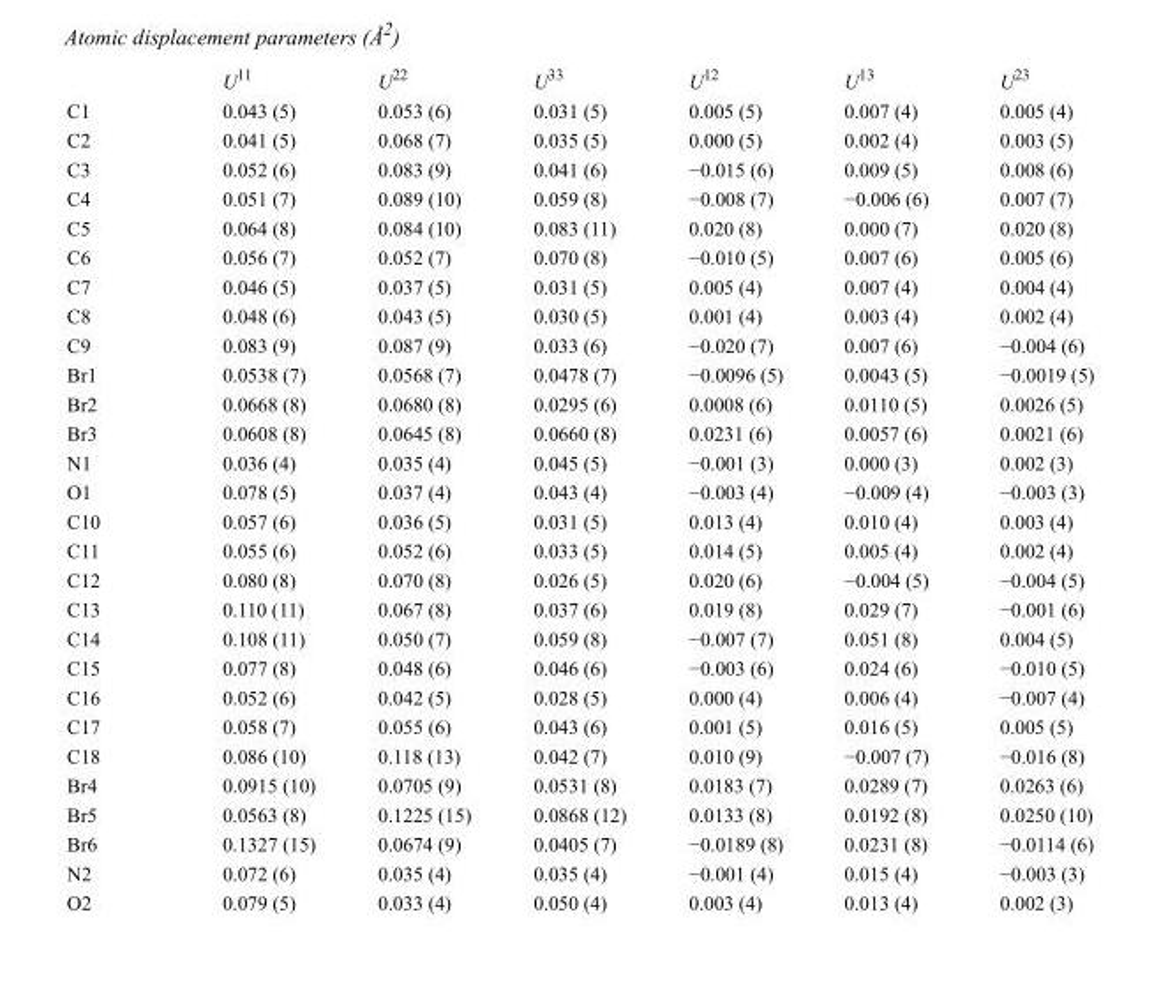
<table><thead><tr><td></td><td>U<sup>11</sup></td><td>U<sup>22</sup></td><td>U<sup>33</sup></td><td>U<sup>12</sup></td><td>U<sup>13</sup></td><td>U<sup>23</sup></td></tr></thead><tbody><tr><td>C1</td><td>0.043 (5)</td><td>0.053 (6)</td><td>0.031 (5)</td><td>0.005 (5)</td><td>0.007 (4)</td><td>0.005 (4)</td></tr><tr><td>C2</td><td>0.041 (5)</td><td>0.068 (7)</td><td>0.035 (5)</td><td>0.000 (5)</td><td>0.002 (4)</td><td>0.003 (5)</td></tr><tr><td>C3</td><td>0.052 (6)</td><td>0.083 (9)</td><td>0.041 (6)</td><td>−0.015 (6)</td><td>0.009 (5)</td><td>0.008 (6)</td></tr><tr><td>C4</td><td>0.051 (7)</td><td>0.089 (10)</td><td>0.059 (8)</td><td>−0.008 (7)</td><td>−0.006 (6)</td><td>0.007 (7)</td></tr><tr><td>C5</td><td>0.064 (8)</td><td>0.084 (10)</td><td>0.083 (11)</td><td>0.020 (8)</td><td>0.000 (7)</td><td>0.020 (8)</td></tr><tr><td>C6</td><td>0.056 (7)</td><td>0.052 (7)</td><td>0.070 (8)</td><td>−0.010 (5)</td><td>0.007 (6)</td><td>0.005 (6)</td></tr><tr><td>C7</td><td>0.046 (5)</td><td>0.037 (5)</td><td>0.031 (5)</td><td>0.005 (4)</td><td>0.007 (4)</td><td>0.004 (4)</td></tr><tr><td>C8</td><td>0.048 (6)</td><td>0.043 (5)</td><td>0.030 (5)</td><td>0.001 (4)</td><td>0.003 (4)</td><td>0.002 (4)</td></tr><tr><td>C9</td><td>0.083 (9)</td><td>0.087 (9)</td><td>0.033 (6)</td><td>−0.020 (7)</td><td>0.007 (6)</td><td>−0.004 (6)</td></tr><tr><td>Br1</td><td>0.0538 (7)</td><td>0.0568 (7)</td><td>0.0478 (7)</td><td>−0.0096 (5)</td><td>0.0043 (5)</td><td>−0.0019 (5)</td></tr><tr><td>Br2</td><td>0.0668 (8)</td><td>0.0680 (8)</td><td>0.0295 (6)</td><td>0.0008 (6)</td><td>0.0110 (5)</td><td>0.0026 (5)</td></tr><tr><td>Br3</td><td>0.0608 (8)</td><td>0.0645 (8)</td><td>0.0660 (8)</td><td>0.0231 (6)</td><td>0.0057 (6)</td><td>0.0021 (6)</td></tr><tr><td>N1</td><td>0.036 (4)</td><td>0.035 (4)</td><td>0.045 (5)</td><td>−0.001 (3)</td><td>0.000 (3)</td><td>0.002 (3)</td></tr><tr><td>O1</td><td>0.078 (5)</td><td>0.037 (4)</td><td>0.043 (4)</td><td>−0.003 (4)</td><td>−0.009 (4)</td><td>−0.003 (3)</td></tr><tr><td>C10</td><td>0.057 (6)</td><td>0.036 (5)</td><td>0.031 (5)</td><td>0.013 (4)</td><td>0.010 (4)</td><td>0.003 (4)</td></tr><tr><td>C11</td><td>0.055 (6)</td><td>0.052 (6)</td><td>0.033 (5)</td><td>0.014 (5)</td><td>0.005 (4)</td><td>0.002 (4)</td></tr><tr><td>C12</td><td>0.080 (8)</td><td>0.070 (8)</td><td>0.026 (5)</td><td>0.020 (6)</td><td>−0.004 (5)</td><td>−0.004 (5)</td></tr><tr><td>C13</td><td>0.110 (11)</td><td>0.067 (8)</td><td>0.037 (6)</td><td>0.019 (8)</td><td>0.029 (7)</td><td>−0.001 (6)</td></tr><tr><td>C14</td><td>0.108 (11)</td><td>0.050 (7)</td><td>0.059 (8)</td><td>−0.007 (7)</td><td>0.051 (8)</td><td>0.004 (5)</td></tr><tr><td>C15</td><td>0.077 (8)</td><td>0.048 (6)</td><td>0.046 (6)</td><td>−0.003 (6)</td><td>0.024 (6)</td><td>−0.010 (5)</td></tr><tr><td>C16</td><td>0.052 (6)</td><td>0.042 (5)</td><td>0.028 (5)</td><td>0.000 (4)</td><td>0.006 (4)</td><td>−0.007 (4)</td></tr><tr><td>C17</td><td>0.058 (7)</td><td>0.055 (6)</td><td>0.043 (6)</td><td>0.001 (5)</td><td>0.016 (5)</td><td>0.005 (5)</td></tr><tr><td>C18</td><td>0.086 (10)</td><td>0.118 (13)</td><td>0.042 (7)</td><td>0.010 (9)</td><td>−0.007 (7)</td><td>−0.016 (8)</td></tr><tr><td>Br4</td><td>0.0915 (10)</td><td>0.0705 (9)</td><td>0.0531 (8)</td><td>0.0183 (7)</td><td>0.0289 (7)</td><td>0.0263 (6)</td></tr><tr><td>Br5</td><td>0.0563 (8)</td><td>0.1225 (15)</td><td>0.0868 (12)</td><td>0.0133 (8)</td><td>0.0192 (8)</td><td>0.0250 (10)</td></tr><tr><td>Br6</td><td>0.1327 (15)</td><td>0.0674 (9)</td><td>0.0405 (7)</td><td>−0.0189 (8)</td><td>0.0231 (8)</td><td>−0.0114 (6)</td></tr><tr><td>N2</td><td>0.072 (6)</td><td>0.035 (4)</td><td>0.035 (4)</td><td>−0.001 (4)</td><td>0.015 (4)</td><td>−0.003 (3)</td></tr><tr><td>O2</td><td>0.079 (5)</td><td>0.033 (4)</td><td>0.050 (4)</td><td>0.003 (4)</td><td>0.013 (4)</td><td>0.002 (3)</td></tr></tbody></table>